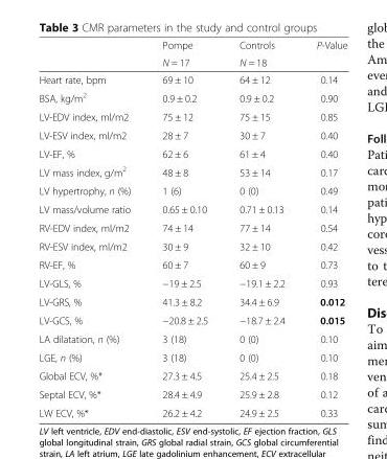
<table><thead><tr><td rowspan="2"></td><td rowspan="2">Pompe N = 17</td><td rowspan="2">Controls N = 18</td><td rowspan="2">P-Value</td></tr><tr></tr></thead><tbody><tr><td>Heart rate, bpm</td><td>69 ± 10</td><td>64 ± 12</td><td>0.14</td></tr><tr><td>BSA, kg/m<sup>2</sup></td><td>0.9 ± 0.2</td><td>0.9 ± 0.2</td><td>0.90</td></tr><tr><td>LV-EDV index, ml/m2</td><td>75 ± 12</td><td>75 ± 15</td><td>0.85</td></tr><tr><td>LV-ESV index, ml/m2</td><td>28 ± 7</td><td>30 ± 7</td><td>0.40</td></tr><tr><td>LV-EF, %</td><td>62 ± 6</td><td>61 ± 4</td><td>0.40</td></tr><tr><td>LV mass index, g/m<sup>2</sup></td><td>48 ± 8</td><td>53 ± 14</td><td>0.17</td></tr><tr><td>LV hypertrophy, n (%)</td><td>1 (6)</td><td>0 (0)</td><td>0.49</td></tr><tr><td>LV mass/volume ratio</td><td>0.65 ± 0.10</td><td>0.71 ± 0.13</td><td>0.14</td></tr><tr><td>RV-EDV index, ml/m2</td><td>74 ± 14</td><td>77 ± 14</td><td>0.54</td></tr><tr><td>RV-ESV index, ml/m2</td><td>30 ± 9</td><td>32 ± 10</td><td>0.42</td></tr><tr><td>RV-EF, %</td><td>60 ± 7</td><td>60 ± 9</td><td>0.73</td></tr><tr><td>LV-GLS, %</td><td>−19 ± 2.5</td><td>−19.1 ± 2.2</td><td>0.93</td></tr><tr><td>LV-GRS, %</td><td>41.3 ± 8.2</td><td>34.4 ± 6.9</td><td>0.012</td></tr><tr><td>LV-GCS, %</td><td>−20.8 ± 2.5</td><td>−18.7 ± 2.4</td><td>0.015</td></tr><tr><td>LA dilatation, n (%)</td><td>3 (18)</td><td>0 (0)</td><td>0.10</td></tr><tr><td>LGE, n (%)</td><td>3 (18)</td><td>0 (0)</td><td>0.10</td></tr><tr><td>Global ECV, %*</td><td>27.3 ± 4.5</td><td>25.4 ± 2.5</td><td>0.18</td></tr><tr><td>Septal ECV, %*</td><td>28.4 ± 4.9</td><td>25.9 ± 2.8</td><td>0.12</td></tr><tr><td>LW ECV, %*</td><td>26.2 ± 4.2</td><td>24.9 ± 2.5</td><td>0.33</td></tr></tbody></table>